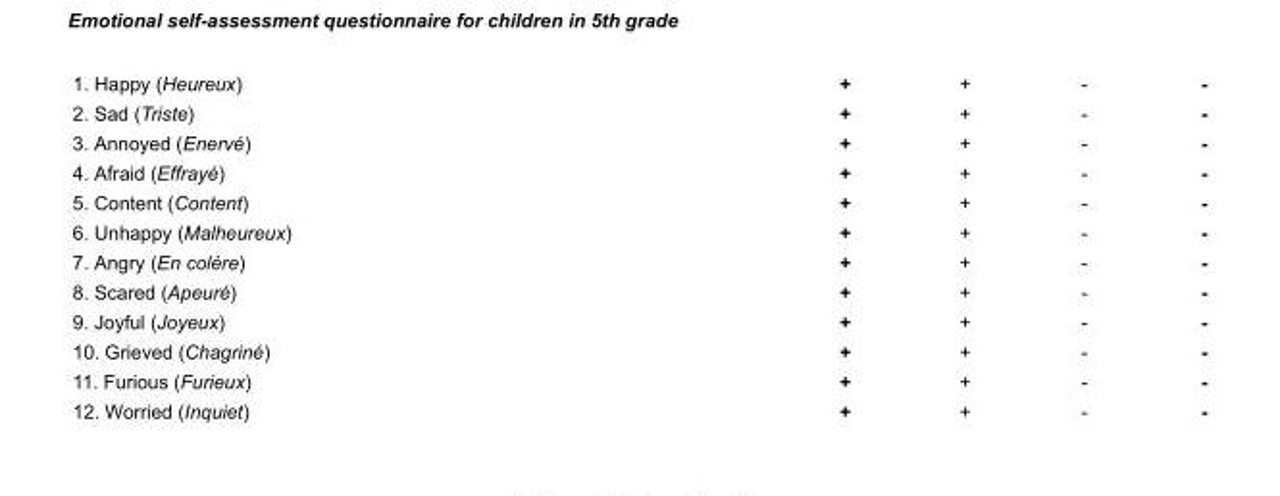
<table><tbody><tr><td>1. Happy (Heureux)</td><td>+</td><td>+</td><td>-</td><td>-</td></tr><tr><td>2. Sad (Triste)</td><td>+</td><td>+</td><td>-</td><td>-</td></tr><tr><td>3. Annoyed (Enervé)</td><td>+</td><td>+</td><td>-</td><td>-</td></tr><tr><td>4. Afraid (Effrayé)</td><td>+</td><td>+</td><td>-</td><td>-</td></tr><tr><td>5. Content (Content)</td><td>+</td><td>+</td><td>-</td><td>-</td></tr><tr><td>6. Unhappy (Malheureux)</td><td>+</td><td>+</td><td>-</td><td>-</td></tr><tr><td>7. Angry (En colère)</td><td>+</td><td>+</td><td>-</td><td>-</td></tr><tr><td>8. Scared (Apeuré)</td><td>+</td><td>+</td><td>-</td><td>-</td></tr><tr><td>9. Joyful (Joyeux)</td><td>+</td><td>+</td><td>-</td><td>-</td></tr><tr><td>10. Grieved (Chagriné)</td><td>+</td><td>+</td><td>-</td><td>-</td></tr><tr><td>11. Furious (Furieux)</td><td>+</td><td>+</td><td>-</td><td>-</td></tr><tr><td>12. Worried (Inquiet)</td><td>+</td><td>+</td><td>-</td><td>-</td></tr></tbody></table>